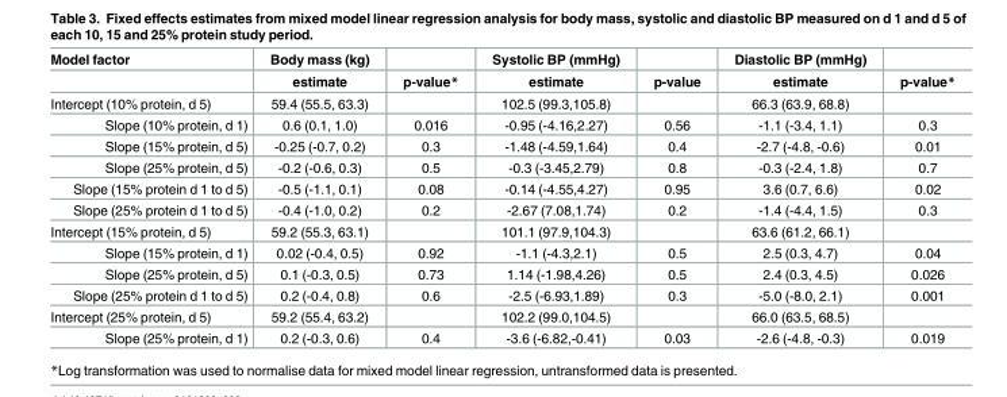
<table><thead><tr><td rowspan="2">Model factor</td><td rowspan="2">Body mass (kg) estimate</td><td rowspan="2">p-value*</td><td rowspan="2">Systolic BP (mmHg) estimate</td><td rowspan="2">p-value</td><td rowspan="2">Diastolic BP (mmHg) estimate</td><td rowspan="2">p-value*</td></tr><tr></tr></thead><tbody><tr><td>Intercept (10% protein, d 5)</td><td>59.4 (55.5, 63.3)</td><td></td><td>102.5 (99.3,105.8)</td><td></td><td>66.3 (63.9, 68.8)</td><td></td></tr><tr><td>Slope (10% protein, d 1)</td><td>0.6 (0.1, 1.0)</td><td>0.016</td><td>-0.95 (-4.16,2.27)</td><td>0.56</td><td>-1.1 (-3.4, 1.1)</td><td>0.3</td></tr><tr><td>Slope (15% protein, d 5)</td><td>-0.25 (-0.7, 0.2)</td><td>0.3</td><td>-1.48 (-4.59,1.64)</td><td>0.4</td><td>-2.7 (-4.8, -0.6)</td><td>0.01</td></tr><tr><td>Slope (25% protein, d 5)</td><td>-0.2 (-0.6, 0.3)</td><td>0.5</td><td>-0.3 (-3.45,2.79)</td><td>0.8</td><td>-0.3 (-2.4, 1.8)</td><td>0.7</td></tr><tr><td>Slope (15% protein d 1 to d 5)</td><td>-0.5 (-1.1, 0.1)</td><td>0.08</td><td>-0.14 (-4.55,4.27)</td><td>0.95</td><td>3.6 (0.7, 6.6)</td><td>0.02</td></tr><tr><td>Slope (25% protein d 1 to d 5)</td><td>-0.4 (-1.0, 0.2)</td><td>0.2</td><td>-2.67 (7.08,1.74)</td><td>0.2</td><td>-1.4 (-4.4, 1.5)</td><td>0.3</td></tr><tr><td>Intercept (15% protein, d 5)</td><td>59.2 (55.3, 63.1)</td><td></td><td>101.1 (97.9,104.3)</td><td></td><td>63.6 (61.2, 66.1)</td><td></td></tr><tr><td>Slope (15% protein, d 1)</td><td>0.02 (-0.4, 0.5)</td><td>0.92</td><td>-1.1 (-4.3,2.1)</td><td>0.5</td><td>2.5 (0.3, 4.7)</td><td>0.04</td></tr><tr><td>Slope (25% protein, d 5)</td><td>0.1 (-0.3, 0.5)</td><td>0.73</td><td>1.14 (-1.98,4.26)</td><td>0.5</td><td>2.4 (0.3, 4.5)</td><td>0.026</td></tr><tr><td>Slope (25% protein d 1 to d 5)</td><td>0.2 (-0.4, 0.8)</td><td>0.6</td><td>-2.5 (-6.93,1.89)</td><td>0.3</td><td>-5.0 (-8.0, 2.1)</td><td>0.001</td></tr><tr><td>Intercept (25% protein, d 5)</td><td>59.2 (55.4, 63.2)</td><td></td><td>102.2 (99.0,104.5)</td><td></td><td>66.0 (63.5, 68.5)</td><td></td></tr><tr><td>Slope (25% protein, d 1)</td><td>0.2 (-0.3, 0.6)</td><td>0.4</td><td>-3.6 (-6.82,-0.41)</td><td>0.03</td><td>-2.6 (-4.8, -0.3)</td><td>0.019</td></tr></tbody></table>